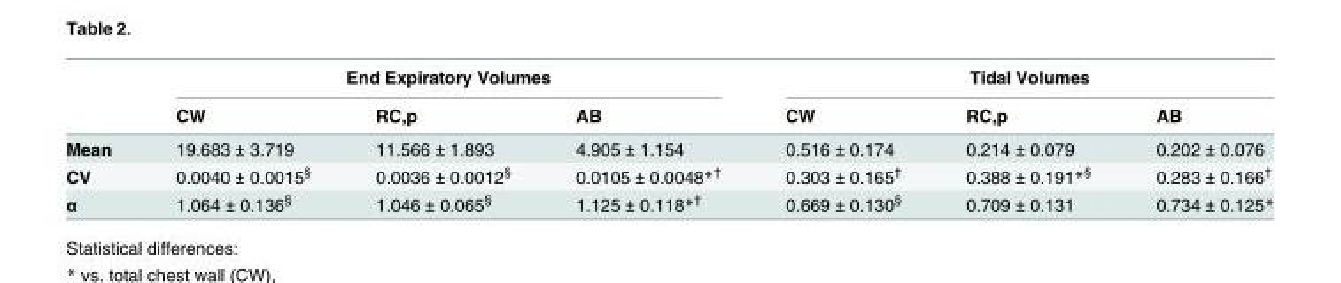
<table><thead><tr><td rowspan="2"></td><td colspan="3">End Expiratory Volumes</td><td colspan="3">Tidal Volumes</td></tr><tr><td>CW</td><td>RC,p</td><td>AB</td><td>CW</td><td>RC,p</td><td>AB</td></tr></thead><tbody><tr><td>Mean</td><td>19.683 ± 3.719</td><td>11.566 ± 1.893</td><td>4.905 ± 1.154</td><td>0.516 ± 0.174</td><td>0.214 ± 0.079</td><td>0.202 ± 0.076</td></tr><tr><td>CV</td><td>0.0040 ± 0.0015<sup>§</sup></td><td>0.0036 ± 0.0012<sup>§</sup></td><td>0.0105 ± 0.0048*<sup>†</sup></td><td>0.303 ± 0.165<sup>†</sup></td><td>0.388 ± 0.191*<sup>§</sup></td><td>0.283 ± 0.166<sup>†</sup></td></tr><tr><td>α</td><td>1.064 ± 0.136<sup>§</sup></td><td>1.046 ± 0.065<sup>§</sup></td><td>1.125 ± 0.118*<sup>†</sup></td><td>0.669 ± 0.130<sup>§</sup></td><td>0.709 ± 0.131</td><td>0.734 ± 0.125*</td></tr></tbody></table>